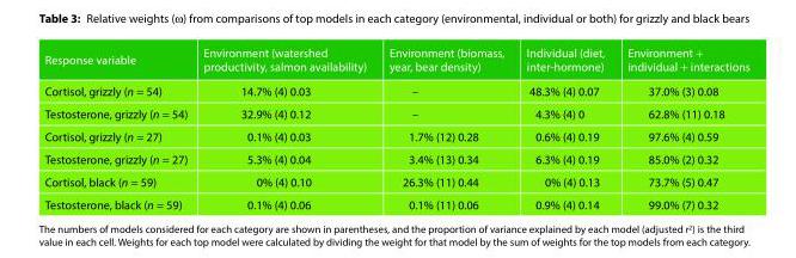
<table><thead><tr><td>Response variable</td><td>Environment (watershed productivity, salmon availability)</td><td>Environment (biomass, year, bear density)</td><td>Individual (diet, inter-hormone)</td><td>Environment + individual + interactions</td></tr></thead><tbody><tr><td>Cortisol, grizzly (n = 54)</td><td>14.7% (4) 0.03</td><td>–</td><td>48.3% (4) 0.07</td><td>37.0% (3) 0.08</td></tr><tr><td>Testosterone, grizzly (n = 54)</td><td>32.9% (4) 0.12</td><td>–</td><td>4.3% (4) 0</td><td>62.8% (11) 0.18</td></tr><tr><td>Cortisol, grizzly (n = 27)</td><td>0.1% (4) 0.03</td><td>1.7% (12) 0.28</td><td>0.6% (4) 0.19</td><td>97.6% (4) 0.59</td></tr><tr><td>Testosterone, grizzly (n = 27)</td><td>5.3% (4) 0.04</td><td>3.4% (13) 0.34</td><td>6.3% (4) 0.19</td><td>85.0% (2) 0.32</td></tr><tr><td>Cortisol, black (n = 59)</td><td>0% (4) 0.10</td><td>26.3% (11) 0.44</td><td>0% (4) 0.13</td><td>73.7% (5) 0.47</td></tr><tr><td>Testosterone, black (n = 59)</td><td>0.1% (4) 0.06</td><td>0.1% (11) 0.06</td><td>0.9% (4) 0.14</td><td>99.0% (7) 0.32</td></tr></tbody></table>